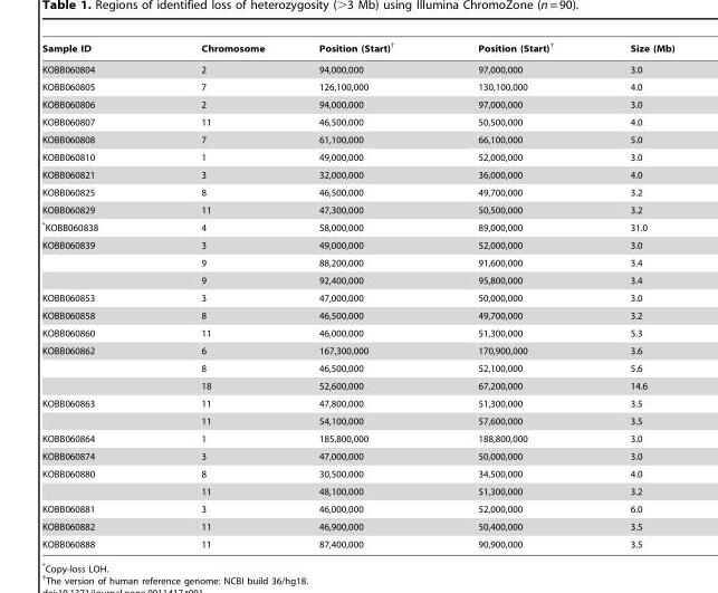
<table><thead><tr><td>Sample ID</td><td>Chromosome</td><td>Position (Start)†</td><td>Position (Start)†</td><td>Size (Mb)</td></tr></thead><tbody><tr><td>KOBB060804</td><td>2</td><td>94,000,000</td><td>97,000,000</td><td>3.0</td></tr><tr><td>KOBB060805</td><td>7</td><td>126,100,000</td><td>130,100,000</td><td>4.0</td></tr><tr><td>KOBB060806</td><td>2</td><td>94,000,000</td><td>97,000,000</td><td>3.0</td></tr><tr><td>KOBB060807</td><td>11</td><td>46,500,000</td><td>50,500,000</td><td>4.0</td></tr><tr><td>KOBB060808</td><td>7</td><td>61,100,000</td><td>66,100,000</td><td>5.0</td></tr><tr><td>KOBB060810</td><td>1</td><td>49,000,000</td><td>52,000,000</td><td>3.0</td></tr><tr><td>KOBB060821</td><td>3</td><td>32,000,000</td><td>36,000,000</td><td>4.0</td></tr><tr><td>KOBB060825</td><td>8</td><td>46,500,000</td><td>49,700,000</td><td>3.2</td></tr><tr><td>KOBB060829</td><td>11</td><td>47,300,000</td><td>50,500,000</td><td>3.2</td></tr><tr><td>*KOBB060838</td><td>4</td><td>58,000,000</td><td>89,000,000</td><td>31.0</td></tr><tr><td rowspan="3">KOBB060839</td><td>3</td><td>49,000,000</td><td>52,000,000</td><td>3.0</td></tr><tr><td>9</td><td>88,200,000</td><td>91,600,000</td><td>3.4</td></tr><tr><td>9</td><td>92,400,000</td><td>95,800,000</td><td>3.4</td></tr><tr><td>KOBB060853</td><td>3</td><td>47,000,000</td><td>50,000,000</td><td>3.0</td></tr><tr><td>KOBB060858</td><td>8</td><td>46,500,000</td><td>49,700,000</td><td>3.2</td></tr><tr><td>KOBB060860</td><td>11</td><td>46,000,000</td><td>51,300,000</td><td>5.3</td></tr><tr><td rowspan="3">KOBB060862</td><td>6</td><td>167,300,000</td><td>170,900,000</td><td>3.6</td></tr><tr><td>8</td><td>46,500,000</td><td>52,100,000</td><td>5.6</td></tr><tr><td>18</td><td>52,600,000</td><td>67,200,000</td><td>14.6</td></tr><tr><td rowspan="2">KOBB060863</td><td>11</td><td>47,800,000</td><td>51,300,000</td><td>3.5</td></tr><tr><td>11</td><td>54,100,000</td><td>57,600,000</td><td>3.5</td></tr><tr><td>KOBB060864</td><td>1</td><td>185,800,000</td><td>188,800,000</td><td>3.0</td></tr><tr><td>KOBB060874</td><td>3</td><td>47,000,000</td><td>50,000,000</td><td>3.0</td></tr><tr><td rowspan="2">KOBB060880</td><td>8</td><td>30,500,000</td><td>34,500,000</td><td>4.0</td></tr><tr><td>11</td><td>48,100,000</td><td>51,300,000</td><td>3.2</td></tr><tr><td>KOBB060881</td><td>3</td><td>46,000,000</td><td>52,000,000</td><td>6.0</td></tr><tr><td>KOBB060882</td><td>11</td><td>46,900,000</td><td>50,400,000</td><td>3.5</td></tr><tr><td>KOBB060888</td><td>11</td><td>87,400,000</td><td>90,900,000</td><td>3.5</td></tr></tbody></table>